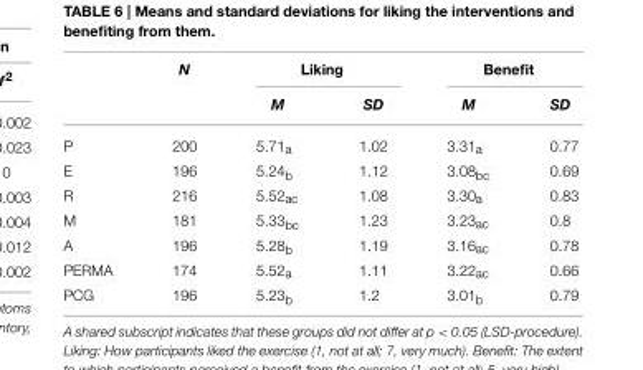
<table><thead><tr><td rowspan="2"></td><td rowspan="2">N</td><td colspan="2">Liking</td><td colspan="2">Benefit</td></tr><tr><td>M</td><td>SD</td><td>M</td><td>SD</td></tr></thead><tbody><tr><td>P</td><td>200</td><td>5.71<sub>a</sub></td><td>1.02</td><td>3.31<sub>a</sub></td><td>0.77</td></tr><tr><td>E</td><td>196</td><td>5.24<sub>b</sub></td><td>1.12</td><td>3.08<sub>bc</sub></td><td>0.69</td></tr><tr><td>R</td><td>216</td><td>5.52<sub>ac</sub></td><td>1.08</td><td>3.30<sub>a</sub></td><td>0.83</td></tr><tr><td>M</td><td>181</td><td>5.33<sub>bc</sub></td><td>1.23</td><td>3.23<sub>ac</sub></td><td>0.8</td></tr><tr><td>A</td><td>196</td><td>5.28<sub>b</sub></td><td>1.19</td><td>3.16<sub>ac</sub></td><td>0.78</td></tr><tr><td>PERMA</td><td>174</td><td>5.52<sub>a</sub></td><td>1.11</td><td>3.22<sub>ac</sub></td><td>0.66</td></tr><tr><td>PCG</td><td>196</td><td>5.23<sub>b</sub></td><td>1.2</td><td>3.01<sub>b</sub></td><td>0.79</td></tr></tbody></table>